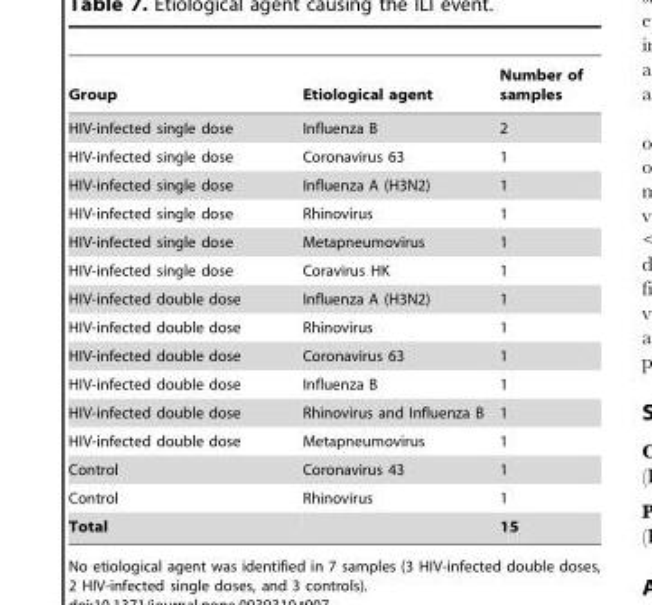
<table><thead><tr><td>Group</td><td>Etiological agent</td><td>Number of samples</td></tr></thead><tbody><tr><td>HIV-infected single dose</td><td>Influenza B</td><td>2</td></tr><tr><td>HIV-infected single dose</td><td>Coronavirus 63</td><td>1</td></tr><tr><td>HIV-infected single dose</td><td>Influenza A (H3N2)</td><td>1</td></tr><tr><td>HIV-infected single dose</td><td>Rhinovirus</td><td>1</td></tr><tr><td>HIV-infected single dose</td><td>Metapneumovirus</td><td>1</td></tr><tr><td>HIV-infected single dose</td><td>Coravirus HK</td><td>1</td></tr><tr><td>HIV-infected double dose</td><td>Influenza A (H3N2)</td><td>1</td></tr><tr><td>HIV-infected double dose</td><td>Rhinovirus</td><td>1</td></tr><tr><td>HIV-infected double dose</td><td>Coronavirus 63</td><td>1</td></tr><tr><td>HIV-infected double dose</td><td>Influenza B</td><td>1</td></tr><tr><td>HIV-infected double dose</td><td>Rhinovirus and Influenza B</td><td>1</td></tr><tr><td>HIV-infected double dose</td><td>Metapneumovirus</td><td>1</td></tr><tr><td>Control</td><td>Coronavirus 43</td><td>1</td></tr><tr><td>Control</td><td>Rhinovirus</td><td>1</td></tr><tr><td>Total</td><td></td><td>15</td></tr></tbody></table>